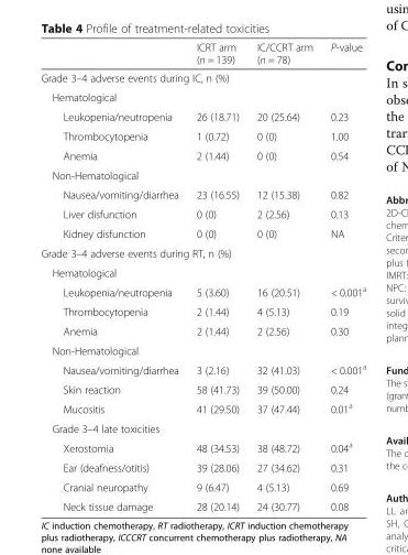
<table><thead><tr><td></td><td>ICRT arm (n = 139)</td><td>IC/CCRT arm (n = 78)</td><td>P-value</td></tr></thead><tbody><tr><td colspan="4">Grade 3–4 adverse events during IC, n (%)</td></tr><tr><td colspan="4">Hematological</td></tr><tr><td>Leukopenia/neutropenia</td><td>26 (18.71)</td><td>20 (25.64)</td><td>0.23</td></tr><tr><td>Thrombocytopenia</td><td>1 (0.72)</td><td>0 (0)</td><td>1.00</td></tr><tr><td>Anemia</td><td>2 (1.44)</td><td>0 (0)</td><td>0.54</td></tr><tr><td colspan="4">Non-Hematological</td></tr><tr><td>Nausea/vomiting/diarrhea</td><td>23 (16.55)</td><td>12 (15.38)</td><td>0.82</td></tr><tr><td>Liver disfunction</td><td>0 (0)</td><td>2 (2.56)</td><td>0.13</td></tr><tr><td>Kidney disfunction</td><td>0 (0)</td><td>0 (0)</td><td>NA</td></tr><tr><td colspan="4">Grade 3–4 adverse events during RT, n (%)</td></tr><tr><td colspan="4">Hematological</td></tr><tr><td>Leukopenia/neutropenia</td><td>5 (3.60)</td><td>16 (20.51)</td><td>&lt; 0.001<sup>a</sup></td></tr><tr><td>Thrombocytopenia</td><td>2 (1.44)</td><td>4 (5.13)</td><td>0.19</td></tr><tr><td>Anemia</td><td>2 (1.44)</td><td>2 (2.56)</td><td>0.30</td></tr><tr><td colspan="4">Non-Hematological</td></tr><tr><td>Nausea/vomiting/diarrhea</td><td>3 (2.16)</td><td>32 (41.03)</td><td>&lt; 0.001<sup>a</sup></td></tr><tr><td>Skin reaction</td><td>58 (41.73)</td><td>39 (50.00)</td><td>0.24</td></tr><tr><td>Mucositis</td><td>41 (29.50)</td><td>37 (47.44)</td><td>0.01<sup>a</sup></td></tr><tr><td colspan="4">Grade 3–4 late toxicities</td></tr><tr><td>Xerostomia</td><td>48 (34.53)</td><td>38 (48.72)</td><td>0.04<sup>a</sup></td></tr><tr><td>Ear (deafness/otitis)</td><td>39 (28.06)</td><td>27 (34.62)</td><td>0.31</td></tr><tr><td>Cranial neuropathy</td><td>9 (6.47)</td><td>4 (5.13)</td><td>0.69</td></tr><tr><td>Neck tissue damage</td><td>28 (20.14)</td><td>24 (30.77)</td><td>0.08</td></tr></tbody></table>